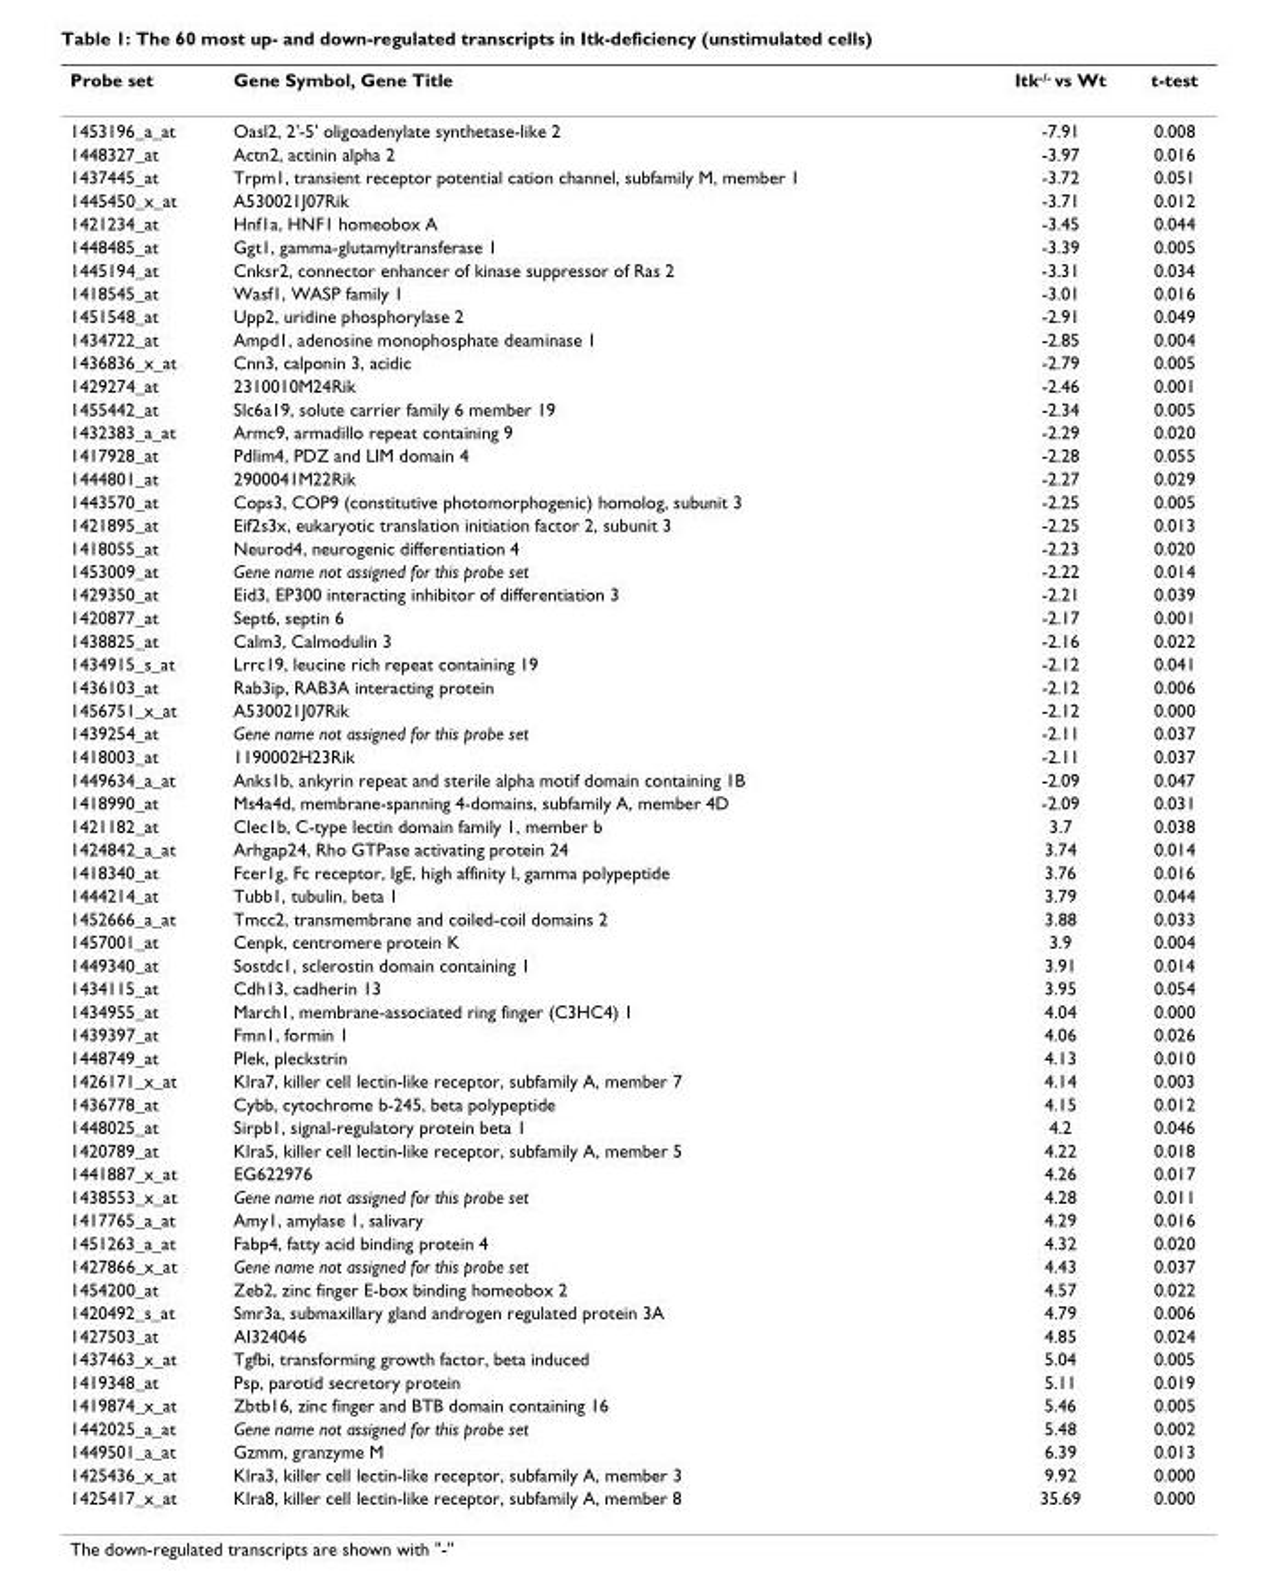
<table><thead><tr><td>Probe set</td><td>Gene Symbol, Gene Title</td><td>Itk<sup>-/-</sup> vs Wt</td><td>t-test</td></tr></thead><tbody><tr><td>1453196_a_at</td><td>Oasl2, 2&#x27;-5&#x27; oligoadenylate synthetase-like 2</td><td>-7.91</td><td>0.008</td></tr><tr><td>1448327_at</td><td>Actn2, actinin alpha 2</td><td>-3.97</td><td>0.016</td></tr><tr><td>1437445_at</td><td>Trpm1, transient receptor potential cation channel, subfamily M, member 1</td><td>-3.72</td><td>0.051</td></tr><tr><td>1445450_x_at</td><td>A530021J07Rik</td><td>-3.71</td><td>0.012</td></tr><tr><td>1421234_at</td><td>Hnf1a, HNF1 homeobox A</td><td>-3.45</td><td>0.044</td></tr><tr><td>1448485_at</td><td>Ggt1, gamma-glutamyltransferase 1</td><td>-3.39</td><td>0.005</td></tr><tr><td>1445194_at</td><td>Cnksr2, connector enhancer of kinase suppressor of Ras 2</td><td>-3.31</td><td>0.034</td></tr><tr><td>1418545_at</td><td>Wasf1, WASP family 1</td><td>-3.01</td><td>0.016</td></tr><tr><td>1451548_at</td><td>Upp2, uridine phosphorylase 2</td><td>-2.91</td><td>0.049</td></tr><tr><td>1434722_at</td><td>Ampd1, adenosine monophosphate deaminase 1</td><td>-2.85</td><td>0.004</td></tr><tr><td>1436836_x_at</td><td>Cnn3, calponin 3, acidic</td><td>-2.79</td><td>0.005</td></tr><tr><td>1429274_at</td><td>2310010M24Rik</td><td>-2.46</td><td>0.001</td></tr><tr><td>1455442_at</td><td>Slc6a19, solute carrier family 6 member 19</td><td>-2.34</td><td>0.005</td></tr><tr><td>1432383_a_at</td><td>Armc9, armadillo repeat containing 9</td><td>-2.29</td><td>0.020</td></tr><tr><td>1417928_at</td><td>Pdlim4, PDZ and LIM domain 4</td><td>-2.28</td><td>0.055</td></tr><tr><td>1444801_at</td><td>2900041M22Rik</td><td>-2.27</td><td>0.029</td></tr><tr><td>1443570_at</td><td>Cops3, COP9 (constitutive photomorphogenic) homolog, subunit 3</td><td>-2.25</td><td>0.005</td></tr><tr><td>1421895_at</td><td>Eif2s3x, eukaryotic translation initiation factor 2, subunit 3</td><td>-2.25</td><td>0.013</td></tr><tr><td>1418055_at</td><td>Neurod4, neurogenic differentiation 4</td><td>-2.23</td><td>0.020</td></tr><tr><td>1453009_at</td><td>Gene name not assigned for this probe set</td><td>-2.22</td><td>0.014</td></tr><tr><td>1429350_at</td><td>Eid3, EP300 interacting inhibitor of differentiation 3</td><td>-2.21</td><td>0.039</td></tr><tr><td>1420877_at</td><td>Sept6, septin 6</td><td>-2.17</td><td>0.001</td></tr><tr><td>1438825_at</td><td>Calm3, Calmodulin 3</td><td>-2.16</td><td>0.022</td></tr><tr><td>1434915_s_at</td><td>Lrrc19, leucine rich repeat containing 19</td><td>-2.12</td><td>0.041</td></tr><tr><td>1436103_at</td><td>Rab3ip, RAB3A interacting protein</td><td>-2.12</td><td>0.006</td></tr><tr><td>1456751_x_at</td><td>A530021J07Rik</td><td>-2.12</td><td>0.000</td></tr><tr><td>1439254_at</td><td>Gene name not assigned for this probe set</td><td>-2.11</td><td>0.037</td></tr><tr><td>1418003_at</td><td>1190002H23Rik</td><td>-2.11</td><td>0.037</td></tr><tr><td>1449634_a_at</td><td>Anks1b, ankyrin repeat and sterile alpha motif domain containing 1B</td><td>-2.09</td><td>0.047</td></tr><tr><td>1418990_at</td><td>Ms4a4d, membrane-spanning 4-domains, subfamily A, member 4D</td><td>-2.09</td><td>0.031</td></tr><tr><td>1421182_at</td><td>Clec1b, C-type lectin domain family 1, member b</td><td>3.7</td><td>0.038</td></tr><tr><td>1424842_a_at</td><td>Arhgap24, Rho GTPase activating protein 24</td><td>3.74</td><td>0.014</td></tr><tr><td>1418340_at</td><td>Fcer1g, Fc receptor, IgE, high affinity I, gamma polypeptide</td><td>3.76</td><td>0.016</td></tr><tr><td>1444214_at</td><td>Tubb1, tubulin, beta 1</td><td>3.79</td><td>0.044</td></tr><tr><td>1452666_a_at</td><td>Tmcc2, transmembrane and coiled-coil domains 2</td><td>3.88</td><td>0.033</td></tr><tr><td>1457001_at</td><td>Cenpk, centromere protein K</td><td>3.9</td><td>0.004</td></tr><tr><td>1449340_at</td><td>Sostdc1, sclerostin domain containing 1</td><td>3.91</td><td>0.014</td></tr><tr><td>1434115_at</td><td>Cdh13, cadherin 13</td><td>3.95</td><td>0.054</td></tr><tr><td>1434955_at</td><td>March1, membrane-associated ring finger (C3HC4) 1</td><td>4.04</td><td>0.000</td></tr><tr><td>1439397_at</td><td>Fmn1, formin 1</td><td>4.06</td><td>0.026</td></tr><tr><td>1448749_at</td><td>Plek, pleckstrin</td><td>4.13</td><td>0.010</td></tr><tr><td>1426171_x_at</td><td>Klra7, killer cell lectin-like receptor, subfamily A, member 7</td><td>4.14</td><td>0.003</td></tr><tr><td>1436778_at</td><td>Cybb, cytochrome b-245, beta polypeptide</td><td>4.15</td><td>0.012</td></tr><tr><td>1448025_at</td><td>Sirpb1, signal-regulatory protein beta 1</td><td>4.2</td><td>0.046</td></tr><tr><td>1420789_at</td><td>Klra5, killer cell lectin-like receptor, subfamily A, member 5</td><td>4.22</td><td>0.018</td></tr><tr><td>1441887_x_at</td><td>EG622976</td><td>4.26</td><td>0.017</td></tr><tr><td>1438553_x_at</td><td>Gene name not assigned for this probe set</td><td>4.28</td><td>0.011</td></tr><tr><td>1417765_a_at</td><td>Amy1, amylase 1, salivary</td><td>4.29</td><td>0.016</td></tr><tr><td>1451263_a_at</td><td>Fabp4, fatty acid binding protein 4</td><td>4.32</td><td>0.020</td></tr><tr><td>1427866_x_at</td><td>Gene name not assigned for this probe set</td><td>4.43</td><td>0.037</td></tr><tr><td>1454200_at</td><td>Zeb2, zinc finger E-box binding homeobox 2</td><td>4.57</td><td>0.022</td></tr><tr><td>1420492_s_at</td><td>Smr3a, submaxillary gland androgen regulated protein 3A</td><td>4.79</td><td>0.006</td></tr><tr><td>1427503_at</td><td>AI324046</td><td>4.85</td><td>0.024</td></tr><tr><td>1437463_x_at</td><td>Tgfbi, transforming growth factor, beta induced</td><td>5.04</td><td>0.005</td></tr><tr><td>1419348_at</td><td>Psp, parotid secretory protein</td><td>5.11</td><td>0.019</td></tr><tr><td>1419874_x_at</td><td>Zbtb16, zinc finger and BTB domain containing 16</td><td>5.46</td><td>0.005</td></tr><tr><td>1442025_a_at</td><td>Gene name not assigned for this probe set</td><td>5.48</td><td>0.002</td></tr><tr><td>1449501_a_at</td><td>Gzmm, granzyme M</td><td>6.39</td><td>0.013</td></tr><tr><td>1425436_x_at</td><td>Klra3, killer cell lectin-like receptor, subfamily A, member 3</td><td>9.92</td><td>0.000</td></tr><tr><td>1425417_x_at</td><td>Klra8, killer cell lectin-like receptor, subfamily A, member 8</td><td>35.69</td><td>0.000</td></tr></tbody></table>